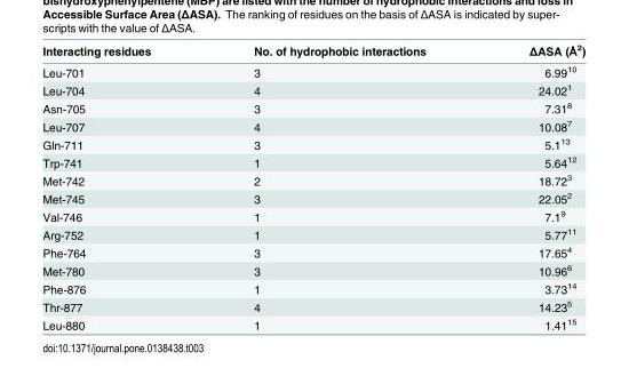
<table><thead><tr><td>Interacting residues</td><td>No. of hydrophobic interactions</td><td>ΔASA (Å<sup>2</sup>)</td></tr></thead><tbody><tr><td>Leu-701</td><td>3</td><td>6.99<sup>10</sup></td></tr><tr><td>Leu-704</td><td>4</td><td>24.02<sup>1</sup></td></tr><tr><td>Asn-705</td><td>3</td><td>7.31<sup>8</sup></td></tr><tr><td>Leu-707</td><td>4</td><td>10.08<sup>7</sup></td></tr><tr><td>Gln-711</td><td>3</td><td>5.1<sup>13</sup></td></tr><tr><td>Trp-741</td><td>1</td><td>5.64<sup>12</sup></td></tr><tr><td>Met-742</td><td>2</td><td>18.72<sup>3</sup></td></tr><tr><td>Met-745</td><td>3</td><td>22.05<sup>2</sup></td></tr><tr><td>Val-746</td><td>1</td><td>7.1<sup>9</sup></td></tr><tr><td>Arg-752</td><td>1</td><td>5.77<sup>11</sup></td></tr><tr><td>Phe-764</td><td>3</td><td>17.65<sup>4</sup></td></tr><tr><td>Met-780</td><td>3</td><td>10.96<sup>6</sup></td></tr><tr><td>Phe-876</td><td>1</td><td>3.73<sup>14</sup></td></tr><tr><td>Thr-877</td><td>4</td><td>14.23<sup>5</sup></td></tr><tr><td>Leu-880</td><td>1</td><td>1.41<sup>15</sup></td></tr></tbody></table>